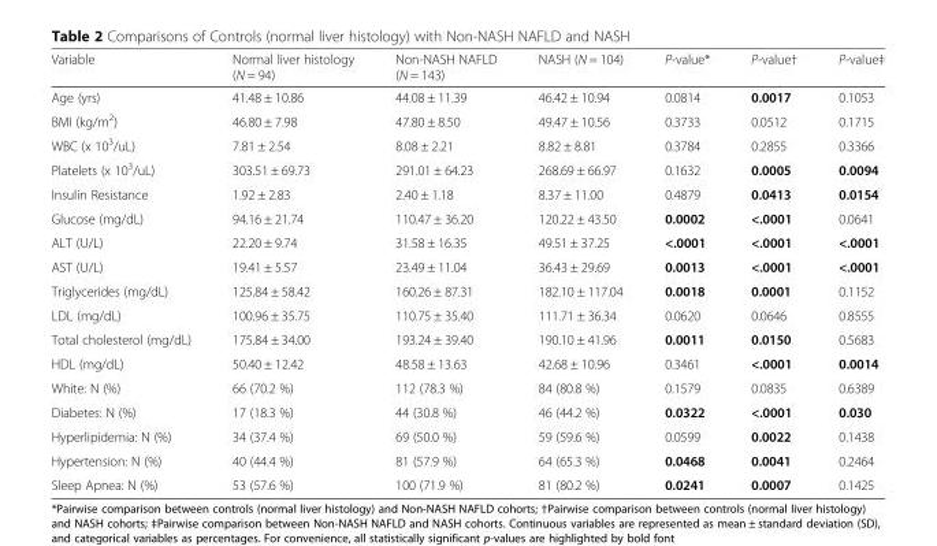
<table><thead><tr><td>Variable</td><td>Normal liver histology (N = 94)</td><td>Non-NASH NAFLD (N = 143)</td><td>NASH (N = 104)</td><td>P-value*</td><td>P-value†</td><td>P-value‡</td></tr></thead><tbody><tr><td>Age (yrs)</td><td>41.48 ± 10.86</td><td>44.08 ± 11.39</td><td>46.42 ± 10.94</td><td>0.0814</td><td>0.0017</td><td>0.1053</td></tr><tr><td>BMI (kg/m<sup>2</sup>)</td><td>46.80 ± 7.98</td><td>47.80 ± 8.50</td><td>49.47 ± 10.56</td><td>0.3733</td><td>0.0512</td><td>0.1715</td></tr><tr><td>WBC (x 10<sup>3</sup>/uL)</td><td>7.81 ± 2.54</td><td>8.08 ± 2.21</td><td>8.82 ± 8.81</td><td>0.3784</td><td>0.2855</td><td>0.3366</td></tr><tr><td>Platelets (x 10<sup>3</sup>/uL)</td><td>303.51 ± 69.73</td><td>291.01 ± 64.23</td><td>268.69 ± 66.97</td><td>0.1632</td><td>0.0005</td><td>0.0094</td></tr><tr><td>Insulin Resistance</td><td>1.92 ± 2.83</td><td>2.40 ± 1.18</td><td>8.37 ± 11.00</td><td>0.4879</td><td>0.0413</td><td>0.0154</td></tr><tr><td>Glucose (mg/dL)</td><td>94.16 ± 21.74</td><td>110.47 ± 36.20</td><td>120.22 ± 43.50</td><td>0.0002</td><td>&lt;.0001</td><td>0.0641</td></tr><tr><td>ALT (U/L)</td><td>22.20 ± 9.74</td><td>31.58 ± 16.35</td><td>49.51 ± 37.25</td><td>&lt;.0001</td><td>&lt;.0001</td><td>&lt;.0001</td></tr><tr><td>AST (U/L)</td><td>19.41 ± 5.57</td><td>23.49 ± 11.04</td><td>36.43 ± 29.69</td><td>0.0013</td><td>&lt;.0001</td><td>&lt;.0001</td></tr><tr><td>Triglycerides (mg/dL)</td><td>125.84 ± 58.42</td><td>160.26 ± 87.31</td><td>182.10 ± 117.04</td><td>0.0018</td><td>0.0001</td><td>0.1152</td></tr><tr><td>LDL (mg/dL)</td><td>100.96 ± 35.75</td><td>110.75 ± 35.40</td><td>111.71 ± 36.34</td><td>0.0620</td><td>0.0646</td><td>0.8555</td></tr><tr><td>Total cholesterol (mg/dL)</td><td>175.84 ± 34.00</td><td>193.24 ± 39.40</td><td>190.10 ± 41.96</td><td>0.0011</td><td>0.0150</td><td>0.5683</td></tr><tr><td>HDL (mg/dL)</td><td>50.40 ± 12.42</td><td>48.58 ± 13.63</td><td>42.68 ± 10.96</td><td>0.3461</td><td>&lt;.0001</td><td>0.0014</td></tr><tr><td>White: N (%)</td><td>66 (70.2 %)</td><td>112 (78.3 %)</td><td>84 (80.8 %)</td><td>0.1579</td><td>0.0835</td><td>0.6389</td></tr><tr><td>Diabetes: N (%)</td><td>17 (18.3 %)</td><td>44 (30.8 %)</td><td>46 (44.2 %)</td><td>0.0322</td><td>&lt;.0001</td><td>0.030</td></tr><tr><td>Hyperlipidemia: N (%)</td><td>34 (37.4 %)</td><td>69 (50.0 %)</td><td>59 (59.6 %)</td><td>0.0599</td><td>0.0022</td><td>0.1438</td></tr><tr><td>Hypertension: N (%)</td><td>40 (44.4 %)</td><td>81 (57.9 %)</td><td>64 (65.3 %)</td><td>0.0468</td><td>0.0041</td><td>0.2464</td></tr><tr><td>Sleep Apnea: N (%)</td><td>53 (57.6 %)</td><td>100 (71.9 %)</td><td>81 (80.2 %)</td><td>0.0241</td><td>0.0007</td><td>0.1425</td></tr></tbody></table>